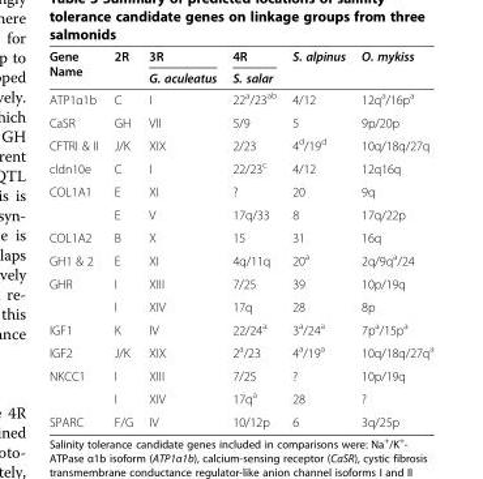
<table><thead><tr><td rowspan="2">Gene Name</td><td rowspan="2">2R</td><td rowspan="2">3R G. aculeatus</td><td rowspan="2">4R S. salar</td><td rowspan="2">S. alpinus</td><td rowspan="2">O. mykiss</td></tr><tr></tr></thead><tbody><tr><td>ATP1α1b</td><td>C</td><td>I</td><td>22<sup>a</sup>/23<sup>ab</sup></td><td>4/12</td><td>12q<sup>a</sup>/16p<sup>a</sup></td></tr><tr><td>CaSR</td><td>GH</td><td>VII</td><td>5/9</td><td>5</td><td>9p/20p</td></tr><tr><td>CFTRI &amp; II</td><td>J/K</td><td>XIX</td><td>2/23</td><td>4<sup>d</sup>/19<sup>d</sup></td><td>10q/18q/27q</td></tr><tr><td>cldn10e</td><td>C</td><td>I</td><td>22/23<sup>c</sup></td><td>4/12</td><td>12q16q</td></tr><tr><td rowspan="2">COL1A1</td><td>E</td><td>XI</td><td>?</td><td>20</td><td>9q</td></tr><tr><td>E</td><td>V</td><td>17q/33</td><td>8</td><td>17q/22p</td></tr><tr><td>COL1A2</td><td>B</td><td>X</td><td>15</td><td>31</td><td>16q</td></tr><tr><td>GH1 &amp; 2</td><td>E</td><td>XI</td><td>4q/11q</td><td>20<sup>a</sup></td><td>2q/9q<sup>a</sup>/24</td></tr><tr><td rowspan="2">GHR</td><td>I</td><td>XIII</td><td>7/25</td><td>39</td><td>10p/19q</td></tr><tr><td>I</td><td>XIV</td><td>17q</td><td>28</td><td>8p</td></tr><tr><td>IGF1</td><td>K</td><td>IV</td><td>22/24<sup>a</sup></td><td>3<sup>a</sup>/24<sup>a</sup></td><td>7p<sup>a</sup>/15p<sup>a</sup></td></tr><tr><td>IGF2</td><td>J/K</td><td>XIX</td><td>2<sup>a</sup>/23</td><td>4<sup>a</sup>/19<sup>a</sup></td><td>10q/18q/27q<sup>a</sup></td></tr><tr><td rowspan="2">NKCC1</td><td>I</td><td>XIII</td><td>7/25</td><td>?</td><td>10p/19q</td></tr><tr><td>I</td><td>XIV</td><td>17q<sup>a</sup></td><td>28</td><td>?</td></tr><tr><td>SPARC</td><td>F/G</td><td>IV</td><td>10/12p</td><td>6</td><td>3q/25p</td></tr></tbody></table>